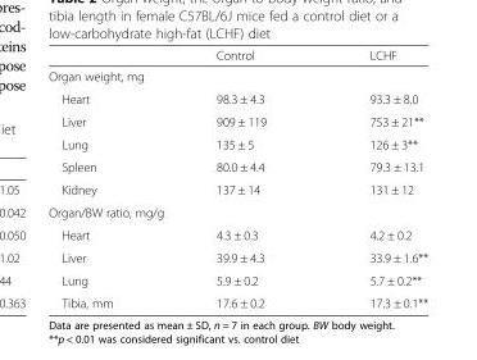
<table><thead><tr><td></td><td>Control</td><td>LCHF</td></tr></thead><tbody><tr><td colspan="3">Organ weight, mg</td></tr><tr><td>Heart</td><td>98.3 ± 4.3</td><td>93.3 ± 8.0</td></tr><tr><td>Liver</td><td>909 ± 119</td><td>753 ± 21**</td></tr><tr><td>Lung</td><td>135 ± 5</td><td>126 ± 3**</td></tr><tr><td>Spleen</td><td>80.0 ± 4.4</td><td>79.3 ± 13.1</td></tr><tr><td>Kidney</td><td>137 ± 14</td><td>131 ± 12</td></tr><tr><td colspan="3">Organ/BW ratio, mg/g</td></tr><tr><td>Heart</td><td>4.3 ± 0.3</td><td>4.2 ± 0.2</td></tr><tr><td>Liver</td><td>39.9 ± 4.3</td><td>33.9 ± 1.6**</td></tr><tr><td>Lung</td><td>5.9 ± 0.2</td><td>5.7 ± 0.2**</td></tr><tr><td>Tibia, mm</td><td>17.6 ± 0.2</td><td>17.3 ± 0.1**</td></tr></tbody></table>